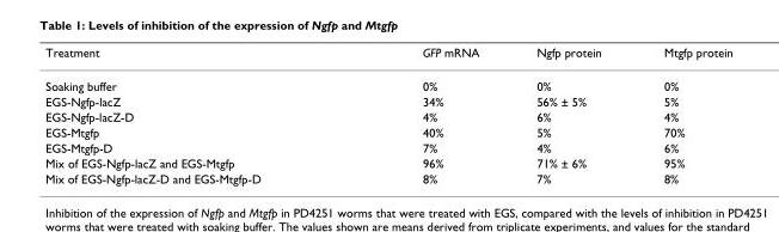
<table><thead><tr><td>Treatment</td><td>GFP mRNA</td><td>Ngfp protein</td><td>Mtgfp protein</td></tr></thead><tbody><tr><td>Soaking buffer</td><td>0%</td><td>0%</td><td>0%</td></tr><tr><td>EGS-Ngfp-lacZ</td><td>34%</td><td>56% ± 5%</td><td>5%</td></tr><tr><td>EGS-Ngfp-lacZ-D</td><td>4%</td><td>6%</td><td>4%</td></tr><tr><td>EGS-Mtgfp</td><td>40%</td><td>5%</td><td>70%</td></tr><tr><td>EGS-Mtgfp-D</td><td>7%</td><td>4%</td><td>6%</td></tr><tr><td>Mix of EGS-Ngfp-lacZ and EGS-Mtgfp</td><td>96%</td><td>71% ± 6%</td><td>95%</td></tr><tr><td>Mix of EGS-Ngfp-lacZ-D and EGS-Mtgfp-D</td><td>8%</td><td>7%</td><td>8%</td></tr></tbody></table>